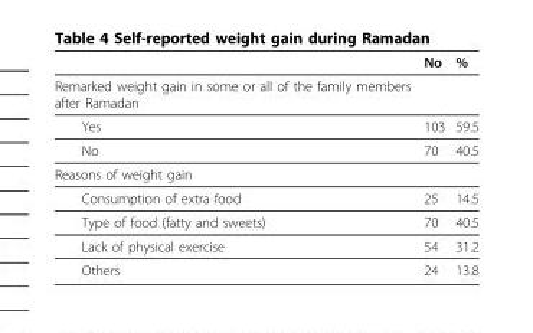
<table><thead><tr><td></td><td>No</td><td>%</td></tr></thead><tbody><tr><td colspan="3">Remarked weight gain in some or all of the family members after Ramadan</td></tr><tr><td>Yes</td><td>103</td><td>59.5</td></tr><tr><td>No</td><td>70</td><td>40.5</td></tr><tr><td colspan="3">Reasons of weight gain</td></tr><tr><td>Consumption of extra food</td><td>25</td><td>14.5</td></tr><tr><td>Type of food (fatty and sweets)</td><td>70</td><td>40.5</td></tr><tr><td>Lack of physical exercise</td><td>54</td><td>31.2</td></tr><tr><td>Others</td><td>24</td><td>13.8</td></tr></tbody></table>